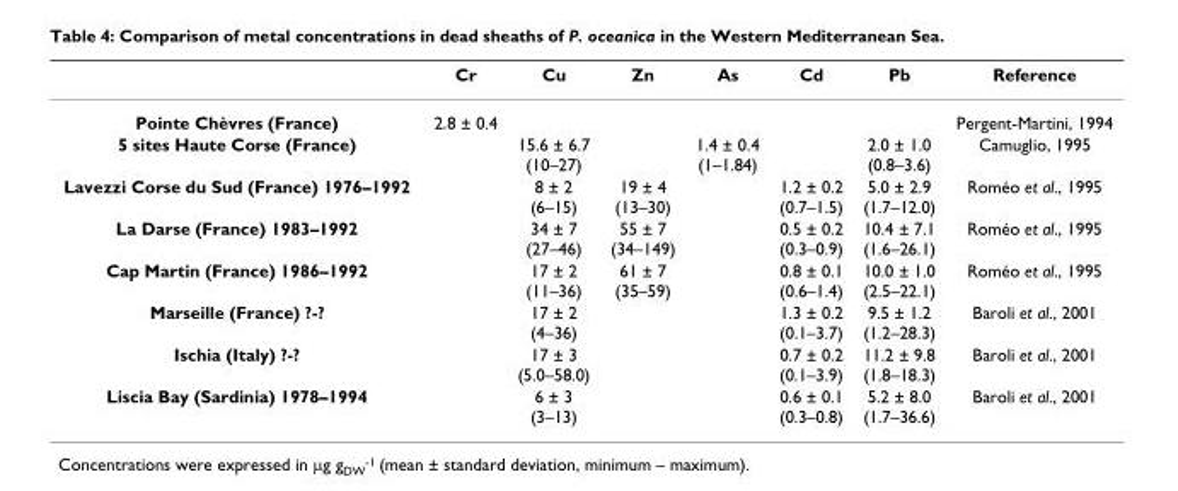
<table><thead><tr><td></td><td>Cr</td><td>Cu</td><td>Zn</td><td>As</td><td>Cd</td><td>Pb</td><td>Reference</td></tr></thead><tbody><tr><td>Pointe Chèvres (France)</td><td>2.8 ± 0.4</td><td></td><td></td><td></td><td></td><td></td><td>Pergent-Martini, 1994</td></tr><tr><td>5 sites Haute Corse (France)</td><td></td><td>15.6 ± 6.7 (10–27)</td><td></td><td>1.4 ± 0.4 (1–1.84)</td><td></td><td>2.0 ± 1.0 (0.8–3.6)</td><td>Camuglio, 1995</td></tr><tr><td>Lavezzi Corse du Sud (France) 1976–1992</td><td></td><td>8 ± 2 (6–15)</td><td>19 ± 4 (13–30)</td><td></td><td>1.2 ± 0.2 (0.7–1.5)</td><td>5.0 ± 2.9 (1.7–12.0)</td><td>Roméo et al., 1995</td></tr><tr><td>La Darse (France) 1983–1992</td><td></td><td>34 ± 7 (27–46)</td><td>55 ± 7 (34–149)</td><td></td><td>0.5 ± 0.2 (0.3–0.9)</td><td>10.4 ± 7.1 (1.6–26.1)</td><td>Roméo et al., 1995</td></tr><tr><td>Cap Martin (France) 1986–1992</td><td></td><td>17 ± 2 (11–36)</td><td>61 ± 7 (35–59)</td><td></td><td>0.8 ± 0.1 (0.6–1.4)</td><td>10.0 ± 1.0 (2.5–22.1)</td><td>Roméo et al., 1995</td></tr><tr><td>Marseille (France) ?-?</td><td></td><td>17 ± 2 (4–36)</td><td></td><td></td><td>1.3 ± 0.2 (0.1–3.7)</td><td>9.5 ± 1.2 (1.2–28.3)</td><td>Baroli et al., 2001</td></tr><tr><td>Ischia (Italy) ?-?</td><td></td><td>17 ± 3 (5.0–58.0)</td><td></td><td></td><td>0.7 ± 0.2 (0.1–3.9)</td><td>11.2 ± 9.8 (1.8–18.3)</td><td>Baroli et al., 2001</td></tr><tr><td>Liscia Bay (Sardinia) 1978–1994</td><td></td><td>6 ± 3 (3–13)</td><td></td><td></td><td>0.6 ± 0.1 (0.3–0.8)</td><td>5.2 ± 8.0 (1.7–36.6)</td><td>Baroli et al., 2001</td></tr></tbody></table>